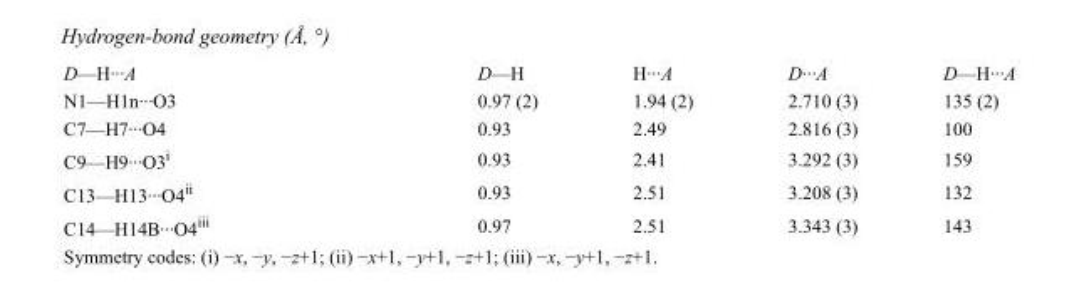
<table><tbody><tr><td>D—H···A</td><td>D—H</td><td>H···A</td><td>D···A</td><td>D—H···A</td></tr><tr><td>N1—H1n···O3</td><td>0.97 (2)</td><td>1.94 (2)</td><td>2.710 (3)</td><td>135 (2)</td></tr><tr><td>C7—H7···O4</td><td>0.93</td><td>2.49</td><td>2.816 (3)</td><td>100</td></tr><tr><td>C9—H9···O3<sup>i</sup></td><td>0.93</td><td>2.41</td><td>3.292 (3)</td><td>159</td></tr><tr><td>C13—H13···O4<sup>ii</sup></td><td>0.93</td><td>2.51</td><td>3.208 (3)</td><td>132</td></tr><tr><td>C14—H14B···O4<sup>iii</sup></td><td>0.97</td><td>2.51</td><td>3.343 (3)</td><td>143</td></tr></tbody></table>